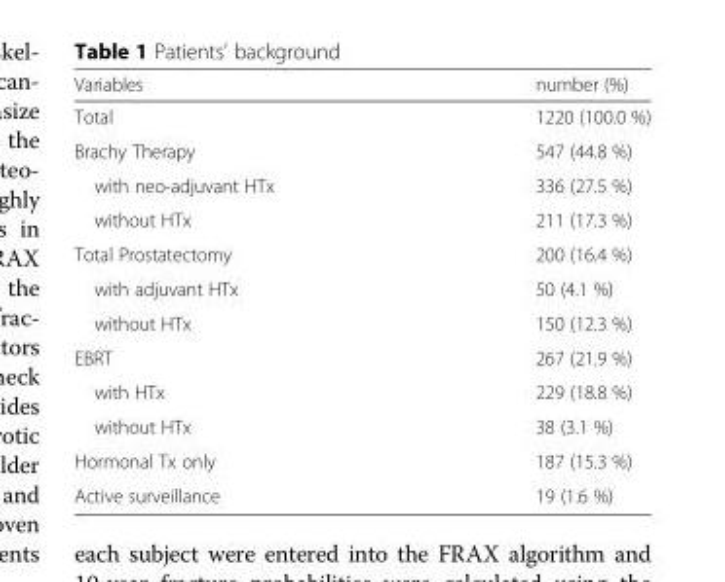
<table><thead><tr><td>Variables</td><td>number (%)</td></tr></thead><tbody><tr><td>Total</td><td>1220 (100.0 %)</td></tr><tr><td>Brachy Therapy</td><td>547 (44.8 %)</td></tr><tr><td>with neo-adjuvant HTx</td><td>336 (27.5 %)</td></tr><tr><td>without HTx</td><td>211 (17.3 %)</td></tr><tr><td>Total Prostatectomy</td><td>200 (16.4 %)</td></tr><tr><td>with adjuvant HTx</td><td>50 (4.1 %)</td></tr><tr><td>without HTx</td><td>150 (12.3 %)</td></tr><tr><td>EBRT</td><td>267 (21.9 %)</td></tr><tr><td>with HTx</td><td>229 (18.8 %)</td></tr><tr><td>without HTx</td><td>38 (3.1 %)</td></tr><tr><td>Hormonal Tx only</td><td>187 (15.3 %)</td></tr><tr><td>Active surveillance</td><td>19 (1.6 %)</td></tr></tbody></table>